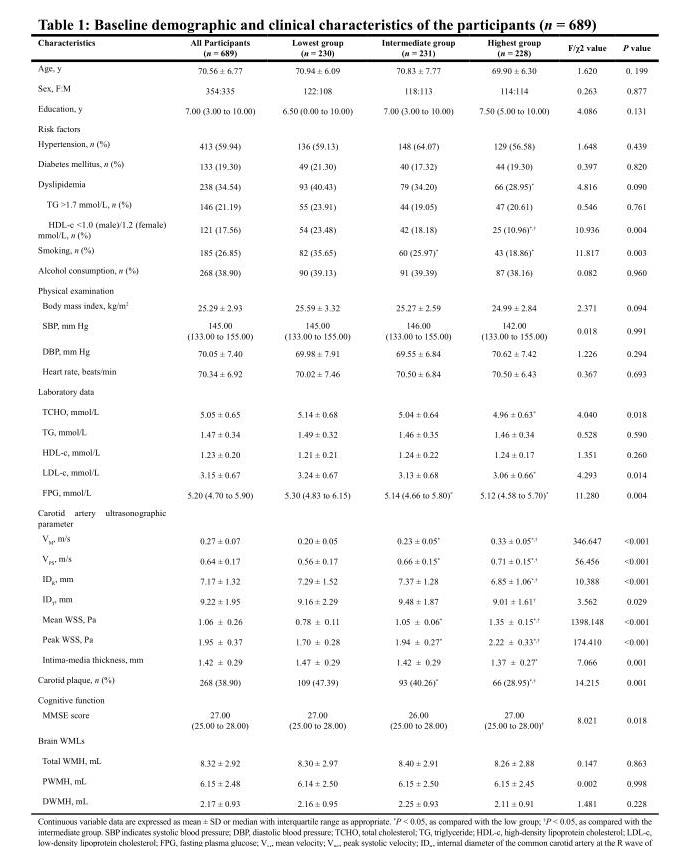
<table><thead><tr><td>Characteristics</td><td>All Participants (n = 689)</td><td>Lowest group (n = 230)</td><td>Intermediate group (n = 231)</td><td>Highest group (n = 228)</td><td>F/χ2 value</td><td>P value</td></tr></thead><tbody><tr><td>Age, y</td><td>70.56 ± 6.77</td><td>70.94 ± 6.09</td><td>70.83 ± 7.77</td><td>69.90 ± 6.30</td><td>1.620</td><td>0. 199</td></tr><tr><td>Sex, F:M</td><td>354:335</td><td>122:108</td><td>118:113</td><td>114:114</td><td>0.263</td><td>0.877</td></tr><tr><td>Education, y</td><td>7.00 (3.00 to 10.00)</td><td>6.50 (0.00 to 10.00)</td><td>7.00 (3.00 to 10.00)</td><td>7.50 (5.00 to 10.00)</td><td>4.086</td><td>0.131</td></tr><tr><td colspan="7">Risk factors</td></tr><tr><td>Hypertension, n (%)</td><td>413 (59.94)</td><td>136 (59.13)</td><td>148 (64.07)</td><td>129 (56.58)</td><td>1.648</td><td>0.439</td></tr><tr><td>Diabetes mellitus, n (%)</td><td>133 (19.30)</td><td>49 (21.30)</td><td>40 (17.32)</td><td>44 (19.30)</td><td>0.397</td><td>0.820</td></tr><tr><td>Dyslipidemia</td><td>238 (34.54)</td><td>93 (40.43)</td><td>79 (34.20)</td><td>66 (28.95)*</td><td>4.816</td><td>0.090</td></tr><tr><td>TG &gt;1.7 mmol/L, n (%)</td><td>146 (21.19)</td><td>55 (23.91)</td><td>44 (19.05)</td><td>47 (20.61)</td><td>0.546</td><td>0.761</td></tr><tr><td>HDL-c &lt;1.0 (male)/1.2 (female) mmol/L, n (%)</td><td>121 (17.56)</td><td>54 (23.48)</td><td>42 (18.18)</td><td>25 (10.96)<sup>*,†</sup></td><td>10.936</td><td>0.004</td></tr><tr><td>Smoking, n (%)</td><td>185 (26.85)</td><td>82 (35.65)</td><td>60 (25.97)*</td><td>43 (18.86)*</td><td>11.817</td><td>0.003</td></tr><tr><td>Alcohol consumption, n (%)</td><td>268 (38.90)</td><td>90 (39.13)</td><td>91 (39.39)</td><td>87 (38.16)</td><td>0.082</td><td>0.960</td></tr><tr><td colspan="7">Physical examination</td></tr><tr><td>Body mass index, kg/m<sup>2</sup></td><td>25.29 ± 2.93</td><td>25.59 ± 3.32</td><td>25.27 ± 2.59</td><td>24.99 ± 2.84</td><td>2.371</td><td>0.094</td></tr><tr><td>SBP, mm Hg</td><td>145.00 (133.00 to 155.00)</td><td>145.00 (133.00 to 155.00)</td><td>146.00 (133.00 to 155.00)</td><td>142.00 (133.00 to 155.00)</td><td>0.018</td><td>0.991</td></tr><tr><td>DBP, mm Hg</td><td>70.05 ± 7.40</td><td>69.98 ± 7.91</td><td>69.55 ± 6.84</td><td>70.62 ± 7.42</td><td>1.226</td><td>0.294</td></tr><tr><td>Heart rate, beats/min</td><td>70.34 ± 6.92</td><td>70.02 ± 7.46</td><td>70.50 ± 6.84</td><td>70.50 ± 6.43</td><td>0.367</td><td>0.693</td></tr><tr><td colspan="7">Laboratory data</td></tr><tr><td>TCHO, mmol/L</td><td>5.05 ± 0.65</td><td>5.14 ± 0.68</td><td>5.04 ± 0.64</td><td>4.96 ± 0.63*</td><td>4.040</td><td>0.018</td></tr><tr><td>TG, mmol/L</td><td>1.47 ± 0.34</td><td>1.49 ± 0.32</td><td>1.46 ± 0.35</td><td>1.46 ± 0.34</td><td>0.528</td><td>0.590</td></tr><tr><td>HDL-c, mmol/L</td><td>1.23 ± 0.20</td><td>1.21 ± 0.21</td><td>1.24 ± 0.22</td><td>1.24 ± 0.17</td><td>1.351</td><td>0.260</td></tr><tr><td>LDL-c, mmol/L</td><td>3.15 ± 0.67</td><td>3.24 ± 0.67</td><td>3.13 ± 0.68</td><td>3.06 ± 0.66*</td><td>4.293</td><td>0.014</td></tr><tr><td>FPG, mmol/L</td><td>5.20 (4.70 to 5.90)</td><td>5.30 (4.83 to 6.15)</td><td>5.14 (4.66 to 5.80)*</td><td>5.12 (4.58 to 5.70)*</td><td>11.280</td><td>0.004</td></tr><tr><td colspan="7">Carotid artery ultrasonographic parameter</td></tr><tr><td>V<sub>M</sub>, m/s</td><td>0.27 ± 0.07</td><td>0.20 ± 0.05</td><td>0.23 ± 0.05*</td><td>0.33 ± 0.05<sup>*,†</sup></td><td>346.647</td><td>&lt;0.001</td></tr><tr><td>V<sub>PS</sub>, m/s</td><td>0.64 ± 0.17</td><td>0.56 ± 0.17</td><td>0.66 ± 0.15*</td><td>0.71 ± 0.15<sup>*,†</sup></td><td>56.456</td><td>&lt;0.001</td></tr><tr><td>ID<sub>R</sub>, mm</td><td>7.17 ± 1.32</td><td>7.29 ± 1.52</td><td>7.37 ± 1.28</td><td>6.85 ± 1.06<sup>*,†</sup></td><td>10.388</td><td>&lt;0.001</td></tr><tr><td>ID<sub>T</sub>, mm</td><td>9.22 ± 1.95</td><td>9.16 ± 2.29</td><td>9.48 ± 1.87</td><td>9.01 ± 1.61<sup>†</sup></td><td>3.562</td><td>0.029</td></tr><tr><td>Mean WSS, Pa</td><td>1.06 ± 0.26</td><td>0.78 ± 0.11</td><td>1.05 ± 0.06*</td><td>1.35 ± 0.15<sup>*,†</sup></td><td>1398.148</td><td>&lt;0.001</td></tr><tr><td>Peak WSS, Pa</td><td>1.95 ± 0.37</td><td>1.70 ± 0.28</td><td>1.94 ± 0.27*</td><td>2.22 ± 0.33<sup>*,†</sup></td><td>174.410</td><td>&lt;0.001</td></tr><tr><td>Intima-media thickness, mm</td><td>1.42 ± 0.29</td><td>1.47 ± 0.29</td><td>1.42 ± 0.29</td><td>1.37 ± 0.27*</td><td>7.066</td><td>0.001</td></tr><tr><td>Carotid plaque, n (%)</td><td>268 (38.90)</td><td>109 (47.39)</td><td>93 (40.26)*</td><td>66 (28.95)<sup>*,†</sup></td><td>14.215</td><td>0.001</td></tr><tr><td colspan="7">Cognitive function</td></tr><tr><td>MMSE score</td><td>27.00 (25.00 to 28.00)</td><td>27.00 (25.00 to 28.00)</td><td>26.00 (25.00 to 28.00)</td><td>27.00 (25.00 to 28.00)<sup>†</sup></td><td>8.021</td><td>0.018</td></tr><tr><td colspan="7">Brain WMLs</td></tr><tr><td>Total WMH, mL</td><td>8.32 ± 2.92</td><td>8.30 ± 2.97</td><td>8.40 ± 2.91</td><td>8.26 ± 2.88</td><td>0.147</td><td>0.863</td></tr><tr><td>PWMH, mL</td><td>6.15 ± 2.48</td><td>6.14 ± 2.50</td><td>6.15 ± 2.50</td><td>6.15 ± 2.45</td><td>0.002</td><td>0.998</td></tr><tr><td>DWMH, mL</td><td>2.17 ± 0.93</td><td>2.16 ± 0.95</td><td>2.25 ± 0.93</td><td>2.11 ± 0.91</td><td>1.481</td><td>0.228</td></tr></tbody></table>